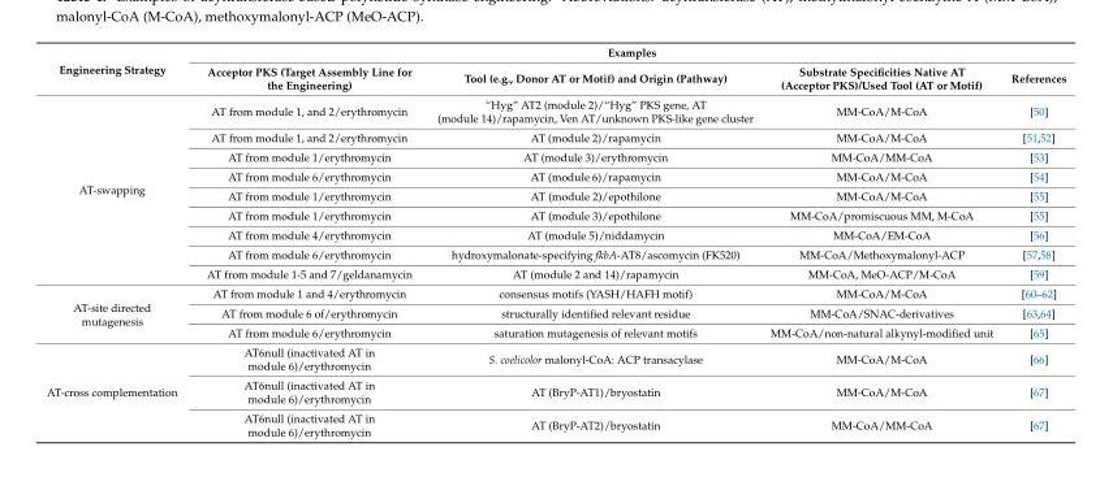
<table><thead><tr><td rowspan="2">Engineering Strategy</td><td colspan="4">Examples</td></tr><tr><td>Acceptor PKS (Target Assembly Line for the Engineering)</td><td>Tool (e.g., Donor AT or Motif) and Origin (Pathway)</td><td>Substrate Specificities Native AT (Acceptor PKS)/Used Tool (AT or Motif)</td><td>References</td></tr></thead><tbody><tr><td rowspan="9">AT-swapping</td><td>AT from module 1, and 2/erythromycin</td><td>“Hyg” AT2 (module 2)/“Hyg” PKS gene, AT (module 14)/rapamycin, Ven AT/unknown PKS-like gene cluster</td><td>MM-CoA/M-CoA</td><td>[50]</td></tr><tr><td>AT from module 1, and 2/erythromycin</td><td>AT (module 2)/rapamycin</td><td>MM-CoA/M-CoA</td><td>[51,52]</td></tr><tr><td>AT from module 1/erythromycin</td><td>AT (module 3)/erythromycin</td><td>MM-CoA/MM-CoA</td><td>[53]</td></tr><tr><td>AT from module 6/erythromycin</td><td>AT (module 6)/rapamycin</td><td>MM-CoA/M-CoA</td><td>[54]</td></tr><tr><td>AT from module 1/erythromycin</td><td>AT (module 2)/epothilone</td><td>MM-CoA/M-CoA</td><td>[55]</td></tr><tr><td>AT from module 1/erythromycin</td><td>AT (module 3)/epothilone</td><td>MM-CoA/promiscuous MM, M-CoA</td><td>[55]</td></tr><tr><td>AT from module 4/erythromycin</td><td>AT (module 5)/niddamycin</td><td>MM-CoA/EM-CoA</td><td>[56]</td></tr><tr><td>AT from module 6/erythromycin</td><td>hydroxymalonate-specifying fkbA-AT8/ascomycin (FK520)</td><td>MM-CoA/Methoxymalonyl-ACP</td><td>[57,58]</td></tr><tr><td>AT from module 1-5 and 7/geldanamycin</td><td>AT (module 2 and 14)/rapamycin</td><td>MM-CoA, MeO-ACP/M-CoA</td><td>[59]</td></tr><tr><td rowspan="3">AT-site directed mutagenesis</td><td>AT from module 1 and 4/erythromycin</td><td>consensus motifs (YASH/HAFH motif)</td><td>MM-CoA/M-CoA</td><td>[60–62]</td></tr><tr><td>AT from module 6 of/erythromycin</td><td>structurally identified relevant residue</td><td>MM-CoA/SNAC-derivatives</td><td>[63,64]</td></tr><tr><td>AT from module 6/erythromycin</td><td>saturation mutagenesis of relevant motifs</td><td>MM-CoA/non-natural alkynyl-modified unit</td><td>[65]</td></tr><tr><td rowspan="3">AT-cross complementation</td><td>AT6null (inactivated AT in module 6)/erythromycin</td><td>S. coelicolor malonyl-CoA: ACP transacylase</td><td>MM-CoA/M-CoA</td><td>[66]</td></tr><tr><td>AT6null (inactivated AT in module 6)/erythromycin</td><td>AT (BryP-AT1)/bryostatin</td><td>MM-CoA/M-CoA</td><td>[67]</td></tr><tr><td>AT6null (inactivated AT in module 6)/erythromycin</td><td>AT (BryP-AT2)/bryostatin</td><td>MM-CoA/MM-CoA</td><td>[67]</td></tr></tbody></table>